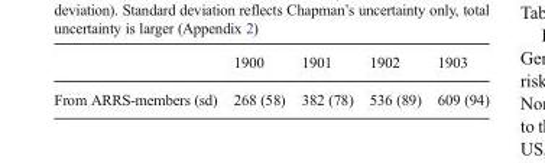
<table><thead><tr><td></td><td>1900</td><td>1901</td><td>1902</td><td>1903</td></tr></thead><tbody><tr><td>From ARRS-members (sd)</td><td>268 (58)</td><td>382 (78)</td><td>536 (89)</td><td>609 (94)</td></tr></tbody></table>